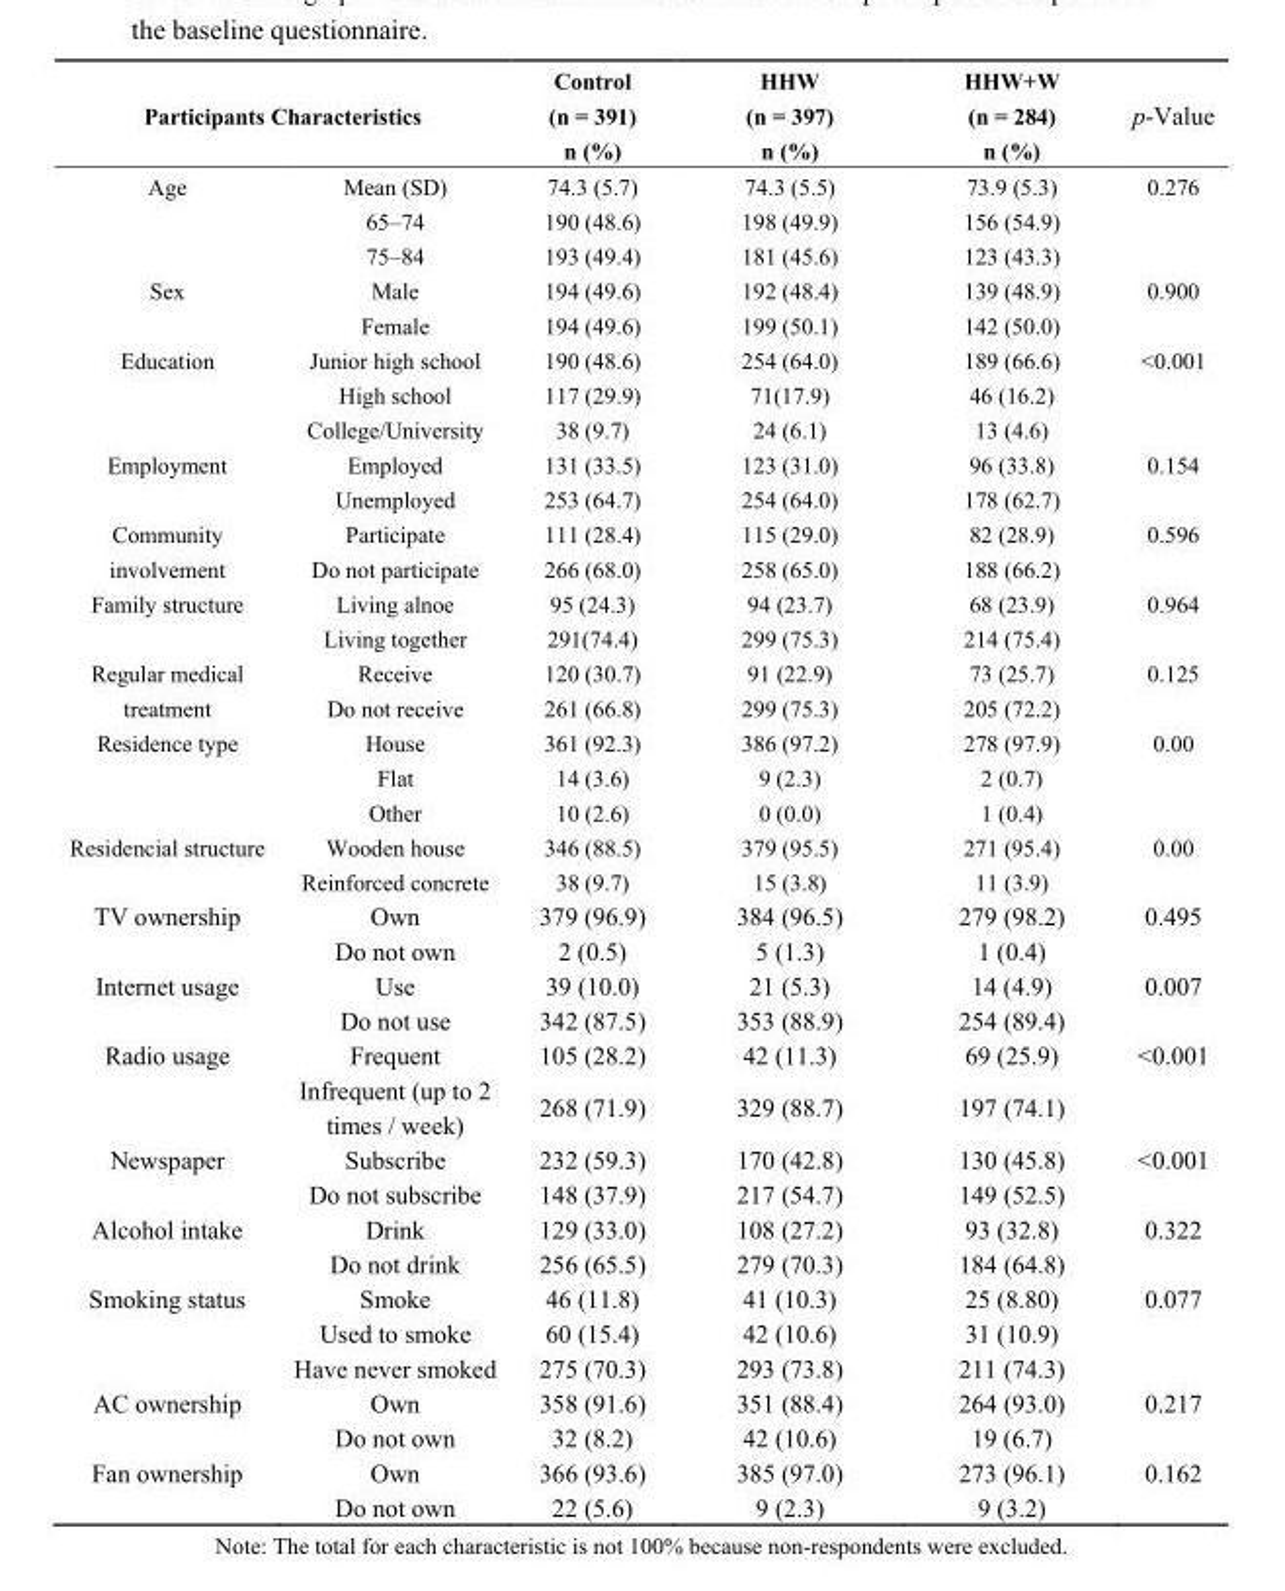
<table><thead><tr><td rowspan="2" colspan="2">Participants Characteristics</td><td rowspan="3">Control (n = 391) n (%) 74.3 (5.7)</td><td rowspan="3">HHW (n = 397) n (%) 74.3 (5.5)</td><td rowspan="3">HHW+W (n = 284) n (%) 73.9 (5.3)</td><td rowspan="3">p-Value 0.276</td></tr><tr></tr><tr><td>Age</td><td>Mean (SD)</td></tr></thead><tbody><tr><td></td><td>65–74</td><td>190 (48.6)</td><td>198 (49.9)</td><td>156 (54.9)</td><td></td></tr><tr><td></td><td>75–84</td><td>193 (49.4)</td><td>181 (45.6)</td><td>123 (43.3)</td><td></td></tr><tr><td rowspan="2">Sex</td><td>Male</td><td>194 (49.6)</td><td>192 (48.4)</td><td>139 (48.9)</td><td>0.900</td></tr><tr><td>Female</td><td>194 (49.6)</td><td>199 (50.1)</td><td>142 (50.0)</td><td></td></tr><tr><td rowspan="3">Education</td><td>Junior high school</td><td>190 (48.6)</td><td>254 (64.0)</td><td>189 (66.6)</td><td>&lt;0.001</td></tr><tr><td>High school</td><td>117 (29.9)</td><td>71(17.9)</td><td>46 (16.2)</td><td></td></tr><tr><td>College/University</td><td>38 (9.7)</td><td>24 (6.1)</td><td>13 (4.6)</td><td></td></tr><tr><td rowspan="2">Employment</td><td>Employed</td><td>131 (33.5)</td><td>123 (31.0)</td><td>96 (33.8)</td><td>0.154</td></tr><tr><td>Unemployed</td><td>253 (64.7)</td><td>254 (64.0)</td><td>178 (62.7)</td><td></td></tr><tr><td rowspan="2">Community involvement</td><td>Participate</td><td>111 (28.4)</td><td>115 (29.0)</td><td>82 (28.9)</td><td>0.596</td></tr><tr><td>Do not participate</td><td>266 (68.0)</td><td>258 (65.0)</td><td>188 (66.2)</td><td></td></tr><tr><td rowspan="2">Family structure</td><td>Living alnoe</td><td>95 (24.3)</td><td>94 (23.7)</td><td>68 (23.9)</td><td>0.964</td></tr><tr><td>Living together</td><td>291(74.4)</td><td>299 (75.3)</td><td>214 (75.4)</td><td></td></tr><tr><td rowspan="2">Regular medical treatment</td><td>Receive</td><td>120 (30.7)</td><td>91 (22.9)</td><td>73 (25.7)</td><td>0.125</td></tr><tr><td>Do not receive</td><td>261 (66.8)</td><td>299 (75.3)</td><td>205 (72.2)</td><td></td></tr><tr><td rowspan="3">Residence type</td><td>House</td><td>361 (92.3)</td><td>386 (97.2)</td><td>278 (97.9)</td><td>0.00</td></tr><tr><td>Flat</td><td>14 (3.6)</td><td>9 (2.3)</td><td>2 (0.7)</td><td></td></tr><tr><td>Other</td><td>10 (2.6)</td><td>0 (0.0)</td><td>1 (0.4)</td><td></td></tr><tr><td rowspan="2">Residencial structure</td><td>Wooden house</td><td>346 (88.5)</td><td>379 (95.5)</td><td>271 (95.4)</td><td>0.00</td></tr><tr><td>Reinforced concrete</td><td>38 (9.7)</td><td>15 (3.8)</td><td>11 (3.9)</td><td></td></tr><tr><td rowspan="2">TV ownership</td><td>Own</td><td>379 (96.9)</td><td>384 (96.5)</td><td>279 (98.2)</td><td>0.495</td></tr><tr><td>Do not own</td><td>2 (0.5)</td><td>5 (1.3)</td><td>1 (0.4)</td><td></td></tr><tr><td rowspan="2">Internet usage</td><td>Use</td><td>39 (10.0)</td><td>21 (5.3)</td><td>14 (4.9)</td><td>0.007</td></tr><tr><td>Do not use</td><td>342 (87.5)</td><td>353 (88.9)</td><td>254 (89.4)</td><td></td></tr><tr><td rowspan="2">Radio usage</td><td>Frequent</td><td>105 (28.2)</td><td>42 (11.3)</td><td>69 (25.9)</td><td>&lt;0.001</td></tr><tr><td>Infrequent (up to 2 times / week)</td><td>268 (71.9)</td><td>329 (88.7)</td><td>197 (74.1)</td><td></td></tr><tr><td rowspan="2">Newspaper</td><td>Subscribe</td><td>232 (59.3)</td><td>170 (42.8)</td><td>130 (45.8)</td><td>&lt;0.001</td></tr><tr><td>Do not subscribe</td><td>148 (37.9)</td><td>217 (54.7)</td><td>149 (52.5)</td><td></td></tr><tr><td rowspan="2">Alcohol intake</td><td>Drink</td><td>129 (33.0)</td><td>108 (27.2)</td><td>93 (32.8)</td><td>0.322</td></tr><tr><td>Do not drink</td><td>256 (65.5)</td><td>279 (70.3)</td><td>184 (64.8)</td><td></td></tr><tr><td rowspan="3">Smoking status</td><td>Smoke</td><td>46 (11.8)</td><td>41 (10.3)</td><td>25 (8.80)</td><td>0.077</td></tr><tr><td>Used to smoke</td><td>60 (15.4)</td><td>42 (10.6)</td><td>31 (10.9)</td><td></td></tr><tr><td>Have never smoked</td><td>275 (70.3)</td><td>293 (73.8)</td><td>211 (74.3)</td><td></td></tr><tr><td rowspan="2">AC ownership</td><td>Own</td><td>358 (91.6)</td><td>351 (88.4)</td><td>264 (93.0)</td><td>0.217</td></tr><tr><td>Do not own</td><td>32 (8.2)</td><td>42 (10.6)</td><td>19 (6.7)</td><td></td></tr><tr><td rowspan="2">Fan ownership</td><td>Own</td><td>366 (93.6)</td><td>385 (97.0)</td><td>273 (96.1)</td><td>0.162</td></tr><tr><td>Do not own</td><td>22 (5.6)</td><td>9 (2.3)</td><td>9 (3.2)</td><td></td></tr></tbody></table>